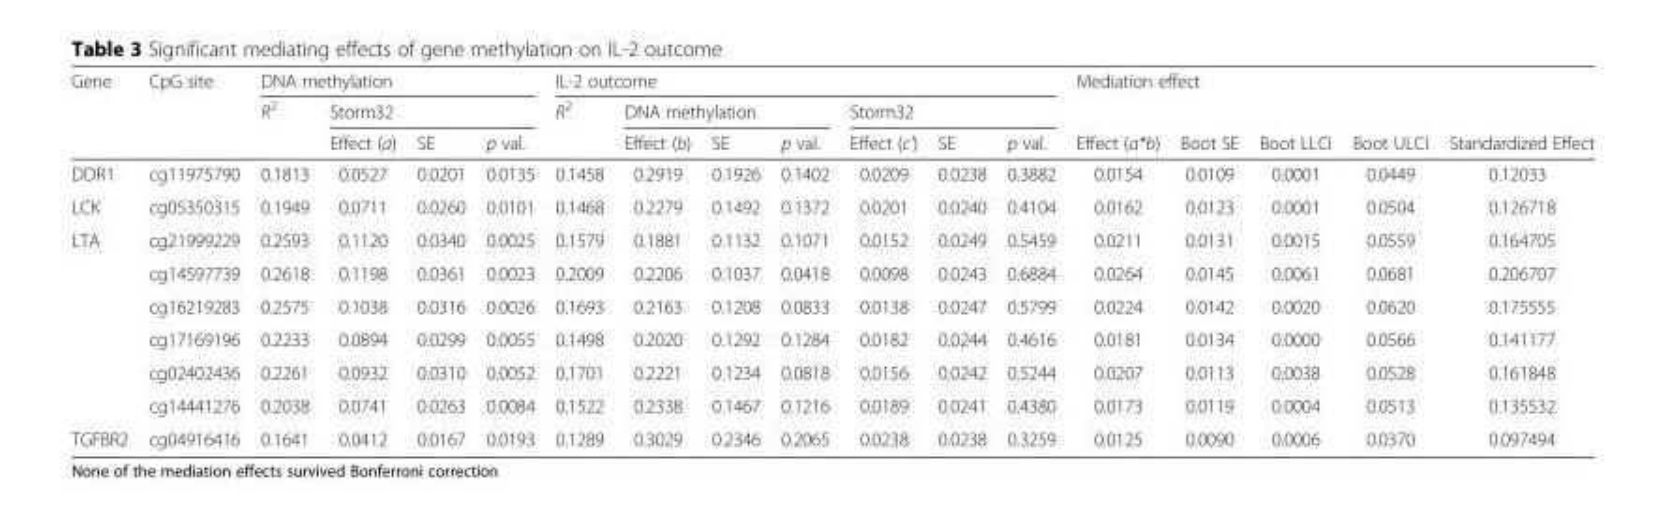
<table><thead><tr><td rowspan="3">Gene</td><td rowspan="3">CpG site</td><td colspan="4">DNA methylation</td><td colspan="7">IL-2 outcome</td><td rowspan="2" colspan="5">Mediation effect</td></tr><tr><td rowspan="2">R<sup>2</sup></td><td colspan="3">Storm32</td><td rowspan="2">R<sup>2</sup></td><td colspan="3">DNA methylation</td><td colspan="3">Storm32</td></tr><tr><td>Effect (a)</td><td>SE</td><td>p val.</td><td>Effect (b)</td><td>SE</td><td>p val.</td><td>Effect (c&#x27;)</td><td>SE</td><td>p val.</td><td>Effect (a*b)</td><td>Boot SE</td><td>Boot LLCI</td><td>Boot ULCI</td><td>Standardized Effect</td></tr></thead><tbody><tr><td>DDR1</td><td>cg11975790</td><td>0.1813</td><td>0.0527</td><td>0.0201</td><td>0.0135</td><td>0.1458</td><td>0.2919</td><td>0.1926</td><td>0.1402</td><td>0.0209</td><td>0.0238</td><td>0.3882</td><td>0.0154</td><td>0.0109</td><td>0.0001</td><td>0.0449</td><td>0.12033</td></tr><tr><td>LCK</td><td>cg05350315</td><td>0.1949</td><td>0.0711</td><td>0.0260</td><td>0.0101</td><td>0.1468</td><td>0.2279</td><td>0.1492</td><td>0.1372</td><td>0.0201</td><td>0.0240</td><td>0.4104</td><td>0.0162</td><td>0.0123</td><td>0.0001</td><td>0.0504</td><td>0.126718</td></tr><tr><td rowspan="6">LTA</td><td>cg21999229</td><td>0.2593</td><td>0.1120</td><td>0.0340</td><td>0.0025</td><td>0.1579</td><td>0.1881</td><td>0.1132</td><td>0.1071</td><td>0.0152</td><td>0.0249</td><td>0.5459</td><td>0.0211</td><td>0.0131</td><td>0.0015</td><td>0.0559</td><td>0.164705</td></tr><tr><td>cg14597739</td><td>0.2618</td><td>0.1198</td><td>0.0361</td><td>0.0023</td><td>0.2009</td><td>0.2206</td><td>0.1037</td><td>0.0418</td><td>0.0098</td><td>0.0243</td><td>0.6884</td><td>0.0264</td><td>0.0145</td><td>0.0061</td><td>0.0681</td><td>0.206707</td></tr><tr><td>cg16219283</td><td>0.2575</td><td>0.1038</td><td>0.0316</td><td>0.0026</td><td>0.1693</td><td>0.2163</td><td>0.1208</td><td>0.0833</td><td>0.0138</td><td>0.0247</td><td>0.5799</td><td>0.0224</td><td>0.0142</td><td>0.0020</td><td>0.0620</td><td>0.175555</td></tr><tr><td>cg17169196</td><td>0.2233</td><td>0.0894</td><td>0.0299</td><td>0.0055</td><td>0.1498</td><td>0.2020</td><td>0.1292</td><td>0.1284</td><td>0.0182</td><td>0.0244</td><td>0.4616</td><td>0.0181</td><td>0.0134</td><td>0.0000</td><td>0.0566</td><td>0.141177</td></tr><tr><td>cg02402436</td><td>0.2261</td><td>0.0932</td><td>0.0310</td><td>0.0052</td><td>0.1701</td><td>0.2221</td><td>0.1234</td><td>0.0818</td><td>0.0156</td><td>0.0242</td><td>0.5244</td><td>0.0207</td><td>0.0113</td><td>0.0038</td><td>0.0528</td><td>0.161848</td></tr><tr><td>cg14441276</td><td>0.2038</td><td>0.0741</td><td>0.0263</td><td>0.0084</td><td>0.1522</td><td>0.2338</td><td>0.1467</td><td>0.1216</td><td>0.0189</td><td>0.0241</td><td>0.4380</td><td>0.0173</td><td>0.0119</td><td>0.0004</td><td>0.0513</td><td>0.135532</td></tr><tr><td>TGFBR2</td><td>cg04916416</td><td>0.1641</td><td>0.0412</td><td>0.0167</td><td>0.0193</td><td>0.1289</td><td>0.3029</td><td>0.2346</td><td>0.2065</td><td>0.0238</td><td>0.0238</td><td>0.3259</td><td>0.0125</td><td>0.0090</td><td>0.0006</td><td>0.0370</td><td>0.097494</td></tr></tbody></table>